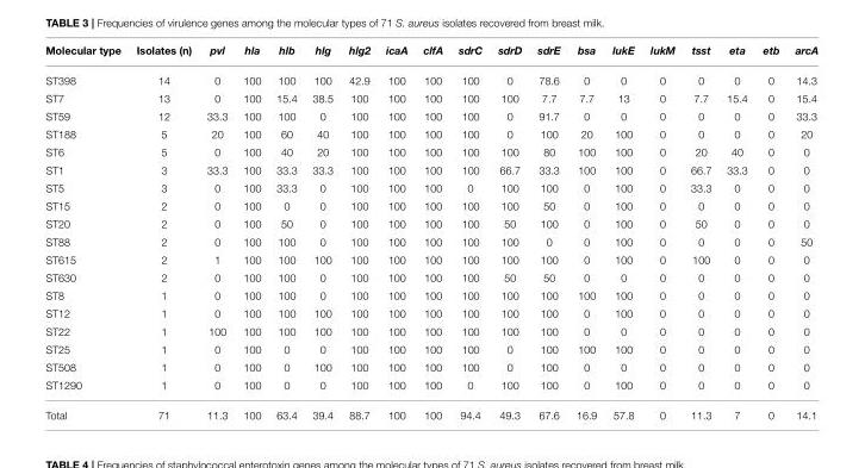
<table><thead><tr><td>Molecular type</td><td>Isolates (n)</td><td>pvl</td><td>hla</td><td>hlb</td><td>hlg</td><td>hlg2</td><td>icaA</td><td>clfA</td><td>sdrC</td><td>sdrD</td><td>sdrE</td><td>bsa</td><td>lukE</td><td>lukM</td><td>tsst</td><td>eta</td><td>etb</td><td>arcA</td></tr></thead><tbody><tr><td>ST398</td><td>14</td><td>0</td><td>100</td><td>100</td><td>100</td><td>42.9</td><td>100</td><td>100</td><td>100</td><td>0</td><td>78.6</td><td>0</td><td>0</td><td>0</td><td>0</td><td>0</td><td>0</td><td>14.3</td></tr><tr><td>ST7</td><td>13</td><td>0</td><td>100</td><td>15.4</td><td>38.5</td><td>100</td><td>100</td><td>100</td><td>100</td><td>100</td><td>7.7</td><td>7.7</td><td>13</td><td>0</td><td>7.7</td><td>15.4</td><td>0</td><td>15.4</td></tr><tr><td>ST59</td><td>12</td><td>33.3</td><td>100</td><td>100</td><td>0</td><td>100</td><td>100</td><td>100</td><td>100</td><td>0</td><td>91.7</td><td>0</td><td>0</td><td>0</td><td>0</td><td>0</td><td>0</td><td>33.3</td></tr><tr><td>ST188</td><td>5</td><td>20</td><td>100</td><td>60</td><td>40</td><td>100</td><td>100</td><td>100</td><td>100</td><td>0</td><td>100</td><td>20</td><td>100</td><td>0</td><td>0</td><td>0</td><td>0</td><td>20</td></tr><tr><td>ST6</td><td>5</td><td>0</td><td>100</td><td>40</td><td>20</td><td>100</td><td>100</td><td>100</td><td>100</td><td>100</td><td>80</td><td>100</td><td>100</td><td>0</td><td>20</td><td>40</td><td>0</td><td>0</td></tr><tr><td>ST1</td><td>3</td><td>33.3</td><td>100</td><td>33.3</td><td>33.3</td><td>100</td><td>100</td><td>100</td><td>100</td><td>66.7</td><td>33.3</td><td>100</td><td>100</td><td>0</td><td>66.7</td><td>33.3</td><td>0</td><td>0</td></tr><tr><td>ST5</td><td>3</td><td>0</td><td>100</td><td>33.3</td><td>0</td><td>100</td><td>100</td><td>100</td><td>0</td><td>100</td><td>100</td><td>0</td><td>100</td><td>0</td><td>33.3</td><td>0</td><td>0</td><td>0</td></tr><tr><td>ST15</td><td>2</td><td>0</td><td>100</td><td>0</td><td>0</td><td>100</td><td>100</td><td>100</td><td>100</td><td>100</td><td>50</td><td>0</td><td>100</td><td>0</td><td>0</td><td>0</td><td>0</td><td>0</td></tr><tr><td>ST20</td><td>2</td><td>0</td><td>100</td><td>50</td><td>0</td><td>100</td><td>100</td><td>100</td><td>100</td><td>50</td><td>100</td><td>0</td><td>100</td><td>0</td><td>50</td><td>0</td><td>0</td><td>0</td></tr><tr><td>ST88</td><td>2</td><td>0</td><td>100</td><td>100</td><td>0</td><td>100</td><td>100</td><td>100</td><td>100</td><td>100</td><td>0</td><td>0</td><td>100</td><td>0</td><td>0</td><td>0</td><td>0</td><td>50</td></tr><tr><td>ST615</td><td>2</td><td>1</td><td>100</td><td>100</td><td>100</td><td>100</td><td>100</td><td>100</td><td>100</td><td>100</td><td>100</td><td>0</td><td>100</td><td>0</td><td>100</td><td>0</td><td>0</td><td>0</td></tr><tr><td>ST630</td><td>2</td><td>0</td><td>100</td><td>100</td><td>0</td><td>100</td><td>100</td><td>100</td><td>100</td><td>50</td><td>50</td><td>0</td><td>0</td><td>0</td><td>0</td><td>0</td><td>0</td><td>0</td></tr><tr><td>ST8</td><td>1</td><td>0</td><td>100</td><td>100</td><td>0</td><td>100</td><td>100</td><td>100</td><td>100</td><td>100</td><td>100</td><td>100</td><td>100</td><td>0</td><td>0</td><td>0</td><td>0</td><td>0</td></tr><tr><td>ST12</td><td>1</td><td>0</td><td>100</td><td>100</td><td>100</td><td>100</td><td>100</td><td>100</td><td>100</td><td>100</td><td>100</td><td>0</td><td>100</td><td>0</td><td>0</td><td>0</td><td>0</td><td>0</td></tr><tr><td>ST22</td><td>1</td><td>100</td><td>100</td><td>100</td><td>100</td><td>100</td><td>100</td><td>100</td><td>100</td><td>100</td><td>100</td><td>0</td><td>0</td><td>0</td><td>0</td><td>0</td><td>0</td><td>0</td></tr><tr><td>ST25</td><td>1</td><td>0</td><td>100</td><td>0</td><td>0</td><td>100</td><td>100</td><td>100</td><td>100</td><td>0</td><td>100</td><td>100</td><td>100</td><td>0</td><td>0</td><td>0</td><td>0</td><td>0</td></tr><tr><td>ST508</td><td>1</td><td>0</td><td>100</td><td>0</td><td>100</td><td>100</td><td>100</td><td>100</td><td>100</td><td>0</td><td>100</td><td>0</td><td>0</td><td>0</td><td>0</td><td>0</td><td>0</td><td>0</td></tr><tr><td>ST1290</td><td>1</td><td>0</td><td>100</td><td>0</td><td>0</td><td>100</td><td>100</td><td>100</td><td>0</td><td>100</td><td>100</td><td>0</td><td>100</td><td>0</td><td>0</td><td>0</td><td>0</td><td>0</td></tr><tr><td>Total</td><td>71</td><td>11.3</td><td>100</td><td>63.4</td><td>39.4</td><td>88.7</td><td>100</td><td>100</td><td>94.4</td><td>49.3</td><td>67.6</td><td>16.9</td><td>57.8</td><td>0</td><td>11.3</td><td>7</td><td>0</td><td>14.1</td></tr></tbody></table>